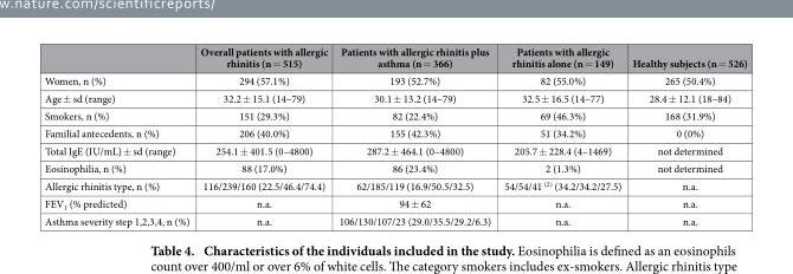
<table><thead><tr><td></td><td>Overall patients with allergic rhinitis (n = 515)</td><td>Patients with allergic rhinitis plus asthma (n = 366)</td><td>Patients with allergic rhinitis alone (n = 149)</td><td>Healthy subjects (n = 526)</td></tr></thead><tbody><tr><td>Women, n (%)</td><td>294 (57.1%)</td><td>193 (52.7%)</td><td>82 (55.0%)</td><td>265 (50.4%)</td></tr><tr><td>Age ± sd (range)</td><td>32.2 ± 15.1 (14–79)</td><td>30.1 ± 13.2 (14–79)</td><td>32.5 ± 16.5 (14–77)</td><td>28.4 ± 12.1 (18–84)</td></tr><tr><td>Smokers, n (%)</td><td>151 (29.3%)</td><td>82 (22.4%)</td><td>69 (46.3%)</td><td>168 (31.9%)</td></tr><tr><td>Familial antecedents, n (%)</td><td>206 (40.0%)</td><td>155 (42.3%)</td><td>51 (34.2%)</td><td>0 (0%)</td></tr><tr><td>Total IgE (IU/mL) ± sd (range)</td><td>254.1 ± 401.5 (0–4800)</td><td>287.2 ± 464.1 (0–4800)</td><td>205.7 ± 228.4 (4–1469)</td><td>not determined</td></tr><tr><td>Eosinophilia, n (%)</td><td>88 (17.0%)</td><td>86 (23.4%)</td><td>2 (1.3%)</td><td>not determined</td></tr><tr><td>Allergic rhinitis type, n (%)</td><td>116/239/160 (22.5/46.4/74.4)</td><td>62/185/119 (16.9/50.5/32.5)</td><td>54/54/41 <sup>(2)</sup> (34.2/34.2/27.5)</td><td>n.a.</td></tr><tr><td>FEV<sub>1</sub> (% predicted)</td><td>n.a.</td><td>94 ± 62</td><td>n.a.</td><td>n.a.</td></tr><tr><td>Asthma severity step 1,2,3,4, n (%)</td><td>n.a.</td><td>106/130/107/23 (29.0/35.5/29.2/6.3)</td><td>n.a.</td><td>n.a.</td></tr></tbody></table>